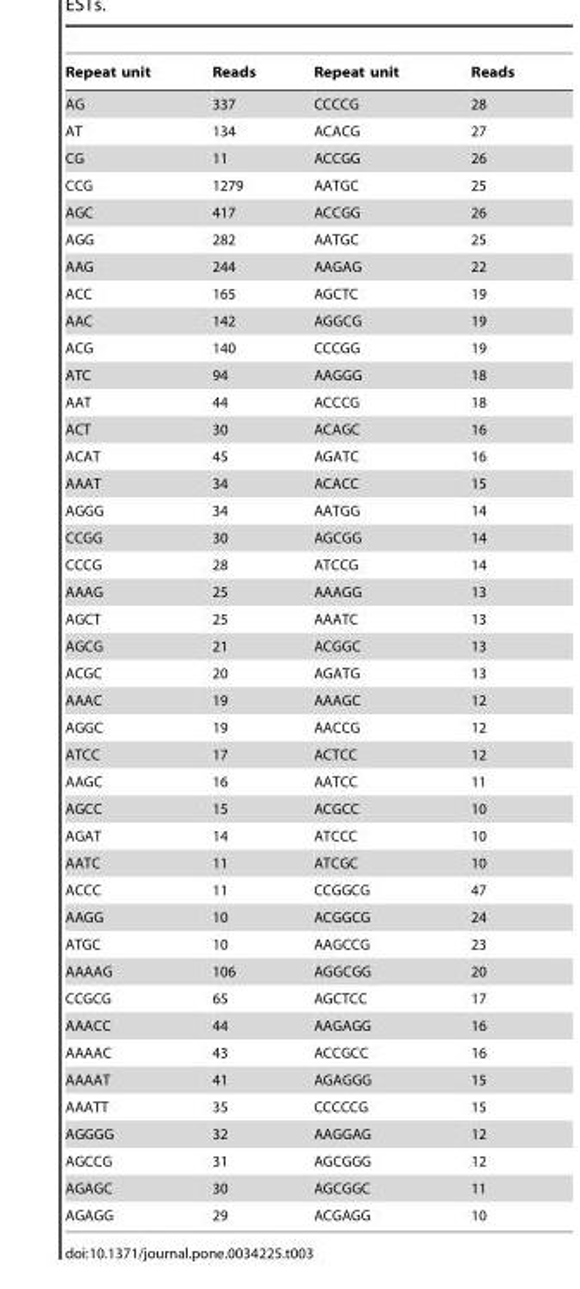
<table><thead><tr><td>Repeat unit</td><td>Reads</td><td>Repeat unit</td><td>Reads</td></tr></thead><tbody><tr><td>AG</td><td>337</td><td>CCCCG</td><td>28</td></tr><tr><td>AT</td><td>134</td><td>ACACG</td><td>27</td></tr><tr><td>CG</td><td>11</td><td>ACCGG</td><td>26</td></tr><tr><td>CCG</td><td>1279</td><td>AATGC</td><td>25</td></tr><tr><td>AGC</td><td>417</td><td>ACCGG</td><td>26</td></tr><tr><td>AGG</td><td>282</td><td>AATGC</td><td>25</td></tr><tr><td>AAG</td><td>244</td><td>AAGAG</td><td>22</td></tr><tr><td>ACC</td><td>165</td><td>AGCTC</td><td>19</td></tr><tr><td>AAC</td><td>142</td><td>AGGCG</td><td>19</td></tr><tr><td>ACG</td><td>140</td><td>CCCGG</td><td>19</td></tr><tr><td>ATC</td><td>94</td><td>AAGGG</td><td>18</td></tr><tr><td>AAT</td><td>44</td><td>ACCCG</td><td>18</td></tr><tr><td>ACT</td><td>30</td><td>ACAGC</td><td>16</td></tr><tr><td>ACAT</td><td>45</td><td>AGATC</td><td>16</td></tr><tr><td>AAAT</td><td>34</td><td>ACACC</td><td>15</td></tr><tr><td>AGGG</td><td>34</td><td>AATGG</td><td>14</td></tr><tr><td>CCGG</td><td>30</td><td>AGCGG</td><td>14</td></tr><tr><td>CCCG</td><td>28</td><td>ATCCG</td><td>14</td></tr><tr><td>AAAG</td><td>25</td><td>AAAGG</td><td>13</td></tr><tr><td>AGCT</td><td>25</td><td>AAATC</td><td>13</td></tr><tr><td>AGCG</td><td>21</td><td>ACGGC</td><td>13</td></tr><tr><td>ACGC</td><td>20</td><td>AGATG</td><td>13</td></tr><tr><td>AAAC</td><td>19</td><td>AAAGC</td><td>12</td></tr><tr><td>AGGC</td><td>19</td><td>AACCG</td><td>12</td></tr><tr><td>ATCC</td><td>17</td><td>ACTCC</td><td>12</td></tr><tr><td>AAGC</td><td>16</td><td>AATCC</td><td>11</td></tr><tr><td>AGCC</td><td>15</td><td>ACGCC</td><td>10</td></tr><tr><td>AGAT</td><td>14</td><td>ATCCC</td><td>10</td></tr><tr><td>AATC</td><td>11</td><td>ATCGC</td><td>10</td></tr><tr><td>ACCC</td><td>11</td><td>CCGGCG</td><td>47</td></tr><tr><td>AAGG</td><td>10</td><td>ACGGCG</td><td>24</td></tr><tr><td>ATGC</td><td>10</td><td>AAGCCG</td><td>23</td></tr><tr><td>AAAAG</td><td>106</td><td>AGGCGG</td><td>20</td></tr><tr><td>CCGCG</td><td>65</td><td>AGCTCC</td><td>17</td></tr><tr><td>AAACC</td><td>44</td><td>AAGAGG</td><td>16</td></tr><tr><td>AAAAC</td><td>43</td><td>ACCGCC</td><td>16</td></tr><tr><td>AAAAT</td><td>41</td><td>AGAGGG</td><td>15</td></tr><tr><td>AAATT</td><td>35</td><td>CCCCCG</td><td>15</td></tr><tr><td>AGGGG</td><td>32</td><td>AAGGAG</td><td>12</td></tr><tr><td>AGCCG</td><td>31</td><td>AGCGGG</td><td>12</td></tr><tr><td>AGAGC</td><td>30</td><td>AGCGGC</td><td>11</td></tr><tr><td>AGAGG</td><td>29</td><td>ACGAGG</td><td>10</td></tr></tbody></table>